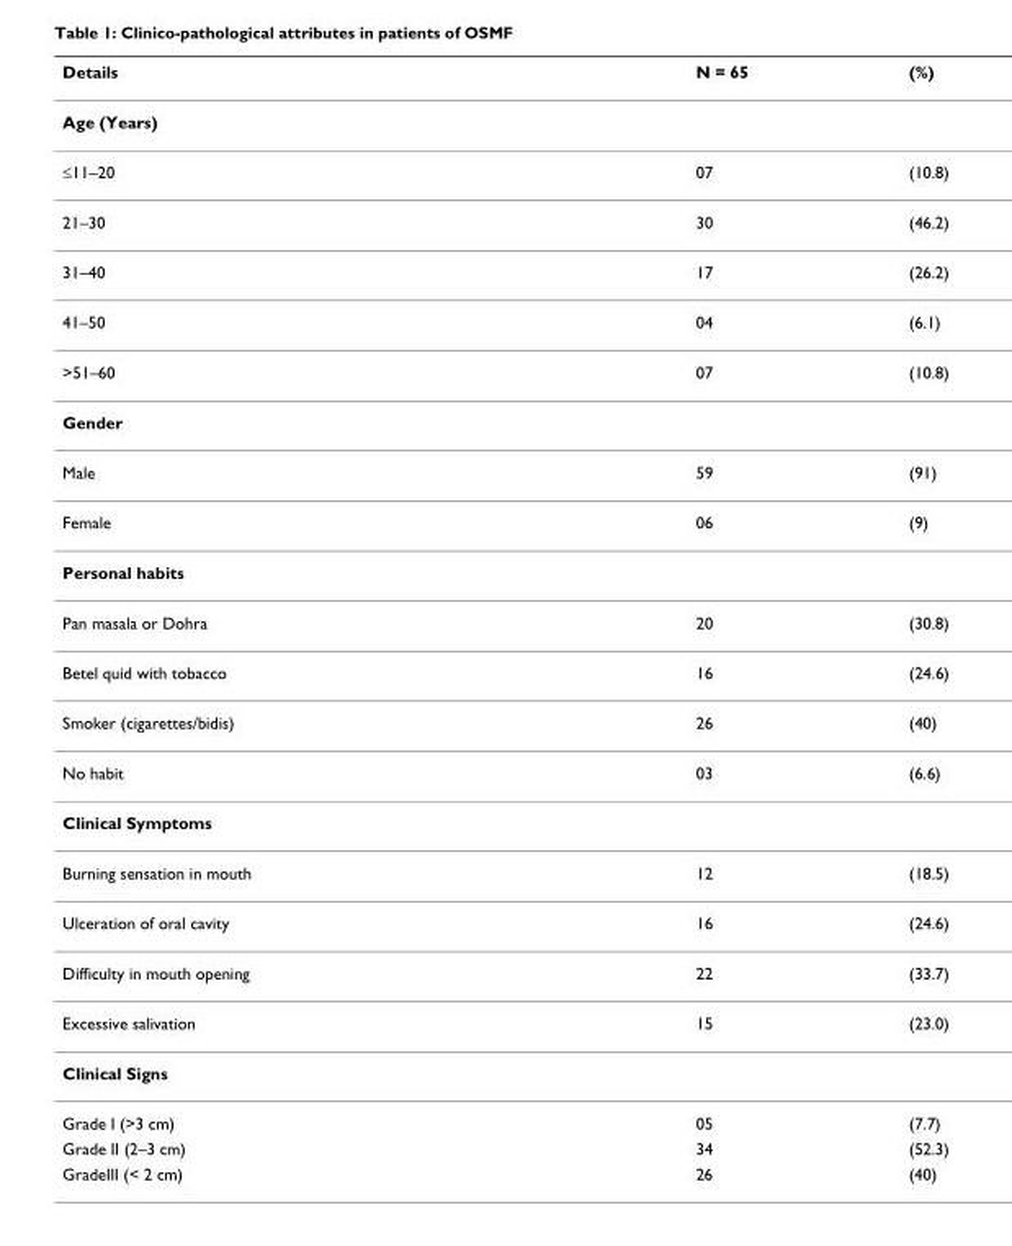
<table><thead><tr><td>Details</td><td>N = 65</td><td>(%)</td></tr></thead><tbody><tr><td colspan="3">Age (Years)</td></tr><tr><td>≤11–20</td><td>07</td><td>(10.8)</td></tr><tr><td>21–30</td><td>30</td><td>(46.2)</td></tr><tr><td>31–40</td><td>17</td><td>(26.2)</td></tr><tr><td>41–50</td><td>04</td><td>(6.1)</td></tr><tr><td>&gt;51–60</td><td>07</td><td>(10.8)</td></tr><tr><td colspan="3">Gender</td></tr><tr><td>Male</td><td>59</td><td>(91)</td></tr><tr><td>Female</td><td>06</td><td>(9)</td></tr><tr><td colspan="3">Personal habits</td></tr><tr><td>Pan masala or Dohra</td><td>20</td><td>(30.8)</td></tr><tr><td>Betel quid with tobacco</td><td>16</td><td>(24.6)</td></tr><tr><td>Smoker (cigarettes/bidis)</td><td>26</td><td>(40)</td></tr><tr><td>No habit</td><td>03</td><td>(6.6)</td></tr><tr><td colspan="3">Clinical Symptoms</td></tr><tr><td>Burning sensation in mouth</td><td>12</td><td>(18.5)</td></tr><tr><td>Ulceration of oral cavity</td><td>16</td><td>(24.6)</td></tr><tr><td>Difficulty in mouth opening</td><td>22</td><td>(33.7)</td></tr><tr><td>Excessive salivation</td><td>15</td><td>(23.0)</td></tr><tr><td colspan="3">Clinical Signs</td></tr><tr><td>Grade I (&gt;3 cm)</td><td>05</td><td>(7.7)</td></tr><tr><td>Grade II (2–3 cm)</td><td>34</td><td>(52.3)</td></tr><tr><td>GradeIII (&lt; 2 cm)</td><td>26</td><td>(40)</td></tr></tbody></table>